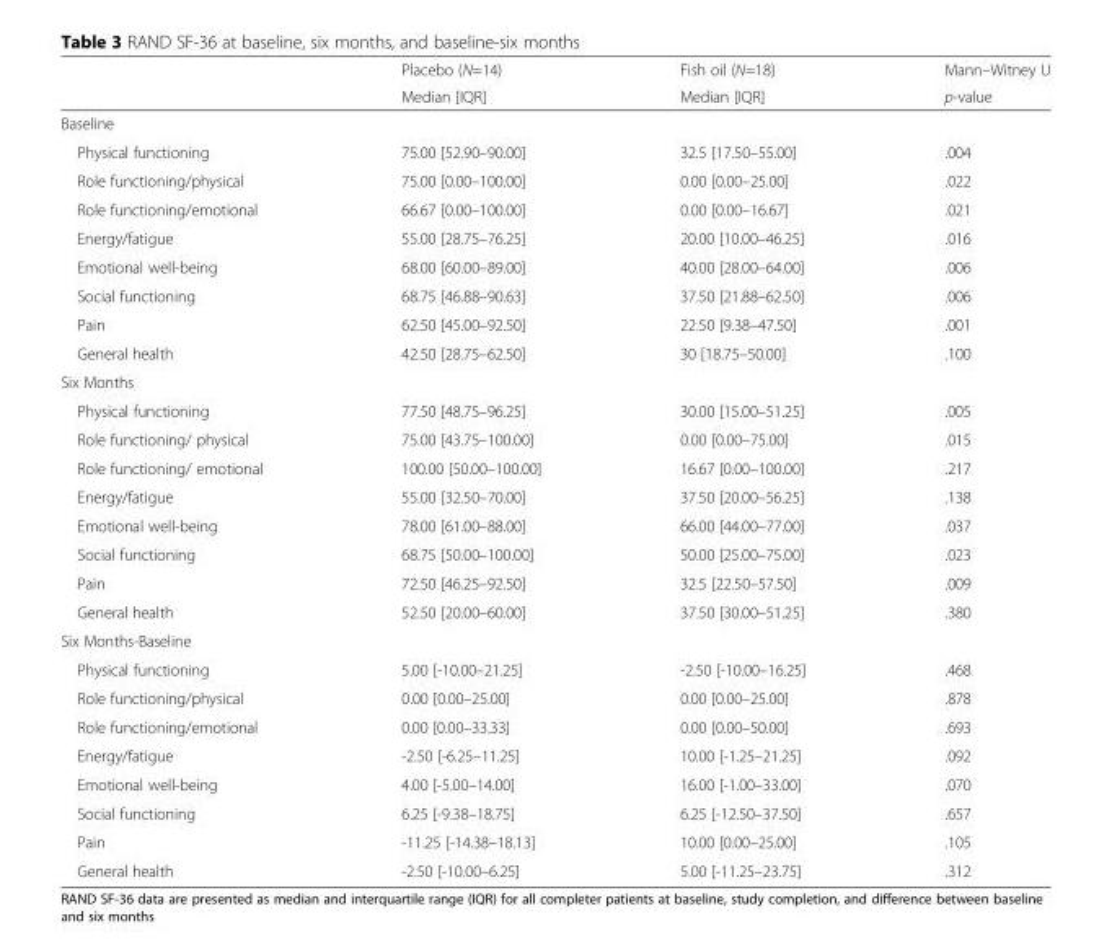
<table><thead><tr><td rowspan="2"></td><td rowspan="2">Placebo (N=14) Median [IQR]</td><td rowspan="2">Fish oil (N=18} Median [IQR]</td><td rowspan="2">Mann–Witney U p-value</td></tr><tr></tr></thead><tbody><tr><td colspan="4">Baseline</td></tr><tr><td>Physical functioning</td><td>75.00 [52.90–90.00]</td><td>32.5 [17.50–55.00]</td><td>.004</td></tr><tr><td>Role functioning/physical</td><td>75.00 [0.00–100.00]</td><td>0.00 [0.00–25.00]</td><td>.022</td></tr><tr><td>Role functioning/emotional</td><td>66.67 [0.00–100.00]</td><td>0.00 [0.00–16.67]</td><td>.021</td></tr><tr><td>Energy/fatigue</td><td>55.00 [28.75–76.25]</td><td>20.00 [10.00–46.25]</td><td>.016</td></tr><tr><td>Emotional well-being</td><td>68.00 [60.00–89.00]</td><td>40.00 [28.00–64.00]</td><td>.006</td></tr><tr><td>Social functioning</td><td>68.75 [46.88–90.63]</td><td>37.50 [21.88–62.50]</td><td>.006</td></tr><tr><td>Pain</td><td>62.50 [45.00–92.50]</td><td>22.50 [9.38–47.50]</td><td>.001</td></tr><tr><td>General health</td><td>42.50 [28.75–62.50]</td><td>30 [18.75–50.00]</td><td>.100</td></tr><tr><td colspan="4">Six Months</td></tr><tr><td>Physical functioning</td><td>77.50 [48.75–96.25]</td><td>30.00 [15.00–51.25]</td><td>.005</td></tr><tr><td>Role functioning/ physical</td><td>75.00 [43.75–100.00]</td><td>0.00 [0.00–75.00]</td><td>.015</td></tr><tr><td>Role functioning/ emotional</td><td>100.00 [50.00–100.00]</td><td>16.67 [0.00–100.00]</td><td>.217</td></tr><tr><td>Energy/fatigue</td><td>55.00 [32.50–70.00]</td><td>37.50 [20.00–56.25]</td><td>.138</td></tr><tr><td>Emotional well-being</td><td>78.00 [61.00–88.00]</td><td>66.00 [44.00–77.00]</td><td>.037</td></tr><tr><td>Social functioning</td><td>68.75 [50.00–100.00]</td><td>50.00 [25.00–75.00]</td><td>.023</td></tr><tr><td>Pain</td><td>72.50 [46.25–92.50]</td><td>32.5 [22.50–57.50]</td><td>.009</td></tr><tr><td>General health</td><td>52.50 [20.00–60.00]</td><td>37.50 [30.00–51.25]</td><td>.380</td></tr><tr><td colspan="4">Six Months-Baseline</td></tr><tr><td>Physical functioning</td><td>5.00 [-10.00–21.25]</td><td>-2.50 [-10.00–16.25]</td><td>.468</td></tr><tr><td>Role functioning/physical</td><td>0.00 [0.00–25.00]</td><td>0.00 [0.00–25.00]</td><td>.878</td></tr><tr><td>Role functioning/emotional</td><td>0.00 [0.00–33.33]</td><td>0.00 [0.00–50.00]</td><td>.693</td></tr><tr><td>Energy/fatigue</td><td>-2.50 [-6.25–11.25]</td><td>10.00 [-1.25–21.25]</td><td>.092</td></tr><tr><td>Emotional well-being</td><td>4.00 [-5.00–14.00]</td><td>16.00 [-1.00–33.00]</td><td>.070</td></tr><tr><td>Social functioning</td><td>6.25 [-9.38–18.75]</td><td>6.25 [-12.50–37.50]</td><td>.657</td></tr><tr><td>Pain</td><td>-11.25 [-14.38–18.13]</td><td>10.00 [0.00–25.00]</td><td>.105</td></tr><tr><td>General health</td><td>-2.50 [-10.00–6.25]</td><td>5.00 [-11.25–23.75]</td><td>.312</td></tr></tbody></table>